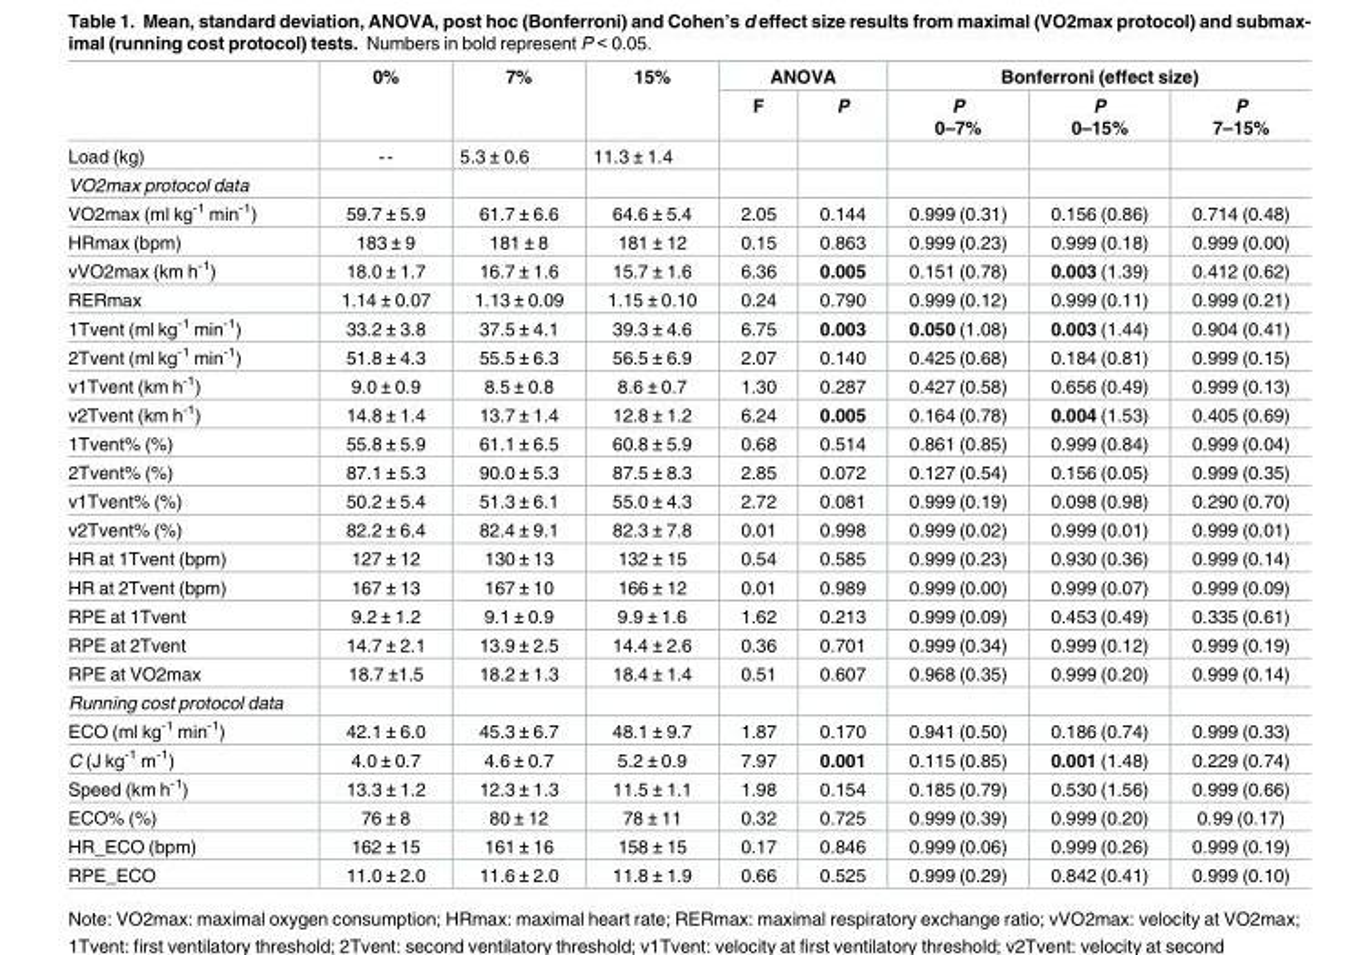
<table><thead><tr><td rowspan="2"></td><td rowspan="2">0%</td><td rowspan="2">7%</td><td rowspan="2">15%</td><td colspan="2">ANOVA</td><td colspan="3">Bonferroni (effect size)</td></tr><tr><td>F</td><td>P</td><td>P 0–7%</td><td>P 0–15%</td><td>P 7–15%</td></tr></thead><tbody><tr><td>Load (kg)</td><td>--</td><td>5.3 ± 0.6</td><td>11.3 ± 1.4</td><td></td><td></td><td></td><td></td><td></td></tr><tr><td colspan="9">VO2max protocol data</td></tr><tr><td>VO2max (ml kg<sup>-1</sup> min<sup>-1</sup>)</td><td>59.7 ± 5.9</td><td>61.7 ± 6.6</td><td>64.6 ± 5.4</td><td>2.05</td><td>0.144</td><td>0.999 (0.31)</td><td>0.156 (0.86)</td><td>0.714 (0.48)</td></tr><tr><td>HRmax (bpm)</td><td>183 ± 9</td><td>181 ± 8</td><td>181 ± 12</td><td>0.15</td><td>0.863</td><td>0.999 (0.23)</td><td>0.999 (0.18)</td><td>0.999 (0.00)</td></tr><tr><td>vVO2max (km h<sup>-1</sup>)</td><td>18.0 ± 1.7</td><td>16.7 ± 1.6</td><td>15.7 ± 1.6</td><td>6.36</td><td>0.005</td><td>0.151 (0.78)</td><td>0.003 (1.39)</td><td>0.412 (0.62)</td></tr><tr><td>RERmax</td><td>1.14 ± 0.07</td><td>1.13 ± 0.09</td><td>1.15 ± 0.10</td><td>0.24</td><td>0.790</td><td>0.999 (0.12)</td><td>0.999 (0.11)</td><td>0.999 (0.21)</td></tr><tr><td>1Tvent (ml kg<sup>-1</sup> min<sup>-1</sup>)</td><td>33.2 ± 3.8</td><td>37.5 ± 4.1</td><td>39.3 ± 4.6</td><td>6.75</td><td>0.003</td><td>0.050 (1.08)</td><td>0.003 (1.44)</td><td>0.904 (0.41)</td></tr><tr><td>2Tvent (ml kg<sup>-1</sup> min<sup>-1</sup>)</td><td>51.8 ± 4.3</td><td>55.5 ± 6.3</td><td>56.5 ± 6.9</td><td>2.07</td><td>0.140</td><td>0.425 (0.68)</td><td>0.184 (0.81)</td><td>0.999 (0.15)</td></tr><tr><td>v1Tvent (km h<sup>-1</sup>)</td><td>9.0 ± 0.9</td><td>8.5 ± 0.8</td><td>8.6 ± 0.7</td><td>1.30</td><td>0.287</td><td>0.427 (0.58)</td><td>0.656 (0.49)</td><td>0.999 (0.13)</td></tr><tr><td>v2Tvent (km h<sup>-1</sup>)</td><td>14.8 ± 1.4</td><td>13.7 ± 1.4</td><td>12.8 ± 1.2</td><td>6.24</td><td>0.005</td><td>0.164 (0.78)</td><td>0.004 (1.53)</td><td>0.405 (0.69)</td></tr><tr><td>1Tvent% (%)</td><td>55.8 ± 5.9</td><td>61.1 ± 6.5</td><td>60.8 ± 5.9</td><td>0.68</td><td>0.514</td><td>0.861 (0.85)</td><td>0.999 (0.84)</td><td>0.999 (0.04)</td></tr><tr><td>2Tvent% (%)</td><td>87.1 ± 5.3</td><td>90.0 ± 5.3</td><td>87.5 ± 8.3</td><td>2.85</td><td>0.072</td><td>0.127 (0.54)</td><td>0.156 (0.05)</td><td>0.999 (0.35)</td></tr><tr><td>v1Tvent% (%)</td><td>50.2 ± 5.4</td><td>51.3 ± 6.1</td><td>55.0 ± 4.3</td><td>2.72</td><td>0.081</td><td>0.999 (0.19)</td><td>0.098 (0.98)</td><td>0.290 (0.70)</td></tr><tr><td>v2Tvent% (%)</td><td>82.2 ± 6.4</td><td>82.4 ± 9.1</td><td>82.3 ± 7.8</td><td>0.01</td><td>0.998</td><td>0.999 (0.02)</td><td>0.999 (0.01)</td><td>0.999 (0.01)</td></tr><tr><td>HR at 1Tvent (bpm)</td><td>127 ± 12</td><td>130 ± 13</td><td>132 ± 15</td><td>0.54</td><td>0.585</td><td>0.999 (0.23)</td><td>0.930 (0.36)</td><td>0.999 (0.14)</td></tr><tr><td>HR at 2Tvent (bpm)</td><td>167 ± 13</td><td>167 ± 10</td><td>166 ± 12</td><td>0.01</td><td>0.989</td><td>0.999 (0.00)</td><td>0.999 (0.07)</td><td>0.999 (0.09)</td></tr><tr><td>RPE at 1Tvent</td><td>9.2 ± 1.2</td><td>9.1 ± 0.9</td><td>9.9 ± 1.6</td><td>1.62</td><td>0.213</td><td>0.999 (0.09)</td><td>0.453 (0.49)</td><td>0.335 (0.61)</td></tr><tr><td>RPE at 2Tvent</td><td>14.7 ± 2.1</td><td>13.9 ± 2.5</td><td>14.4 ± 2.6</td><td>0.36</td><td>0.701</td><td>0.999 (0.34)</td><td>0.999 (0.12)</td><td>0.999 (0.19)</td></tr><tr><td>RPE at VO2max</td><td>18.7 ±1.5</td><td>18.2 ± 1.3</td><td>18.4 ± 1.4</td><td>0.51</td><td>0.607</td><td>0.968 (0.35)</td><td>0.999 (0.20)</td><td>0.999 (0.14)</td></tr><tr><td colspan="9">Running cost protocol data</td></tr><tr><td>ECO (ml kg<sup>-1</sup> min<sup>-1</sup>)</td><td>42.1 ± 6.0</td><td>45.3 ± 6.7</td><td>48.1 ± 9.7</td><td>1.87</td><td>0.170</td><td>0.941 (0.50)</td><td>0.186 (0.74)</td><td>0.999 (0.33)</td></tr><tr><td>C (J kg<sup>-1</sup> m<sup>-1</sup>)</td><td>4.0 ± 0.7</td><td>4.6 ± 0.7</td><td>5.2 ± 0.9</td><td>7.97</td><td>0.001</td><td>0.115 (0.85)</td><td>0.001 (1.48)</td><td>0.229 (0.74)</td></tr><tr><td>Speed (km h<sup>-1</sup>)</td><td>13.3 ± 1.2</td><td>12.3 ± 1.3</td><td>11.5 ± 1.1</td><td>1.98</td><td>0.154</td><td>0.185 (0.79)</td><td>0.530 (1.56)</td><td>0.999 (0.66)</td></tr><tr><td>ECO% (%)</td><td>76 ± 8</td><td>80 ± 12</td><td>78 ± 11</td><td>0.32</td><td>0.725</td><td>0.999 (0.39)</td><td>0.999 (0.20)</td><td>0.99 (0.17)</td></tr><tr><td>HR_ECO (bpm)</td><td>162 ± 15</td><td>161 ± 16</td><td>158 ± 15</td><td>0.17</td><td>0.846</td><td>0.999 (0.06)</td><td>0.999 (0.26)</td><td>0.999 (0.19)</td></tr><tr><td>RPE_ECO</td><td>11.0 ± 2.0</td><td>11.6 ± 2.0</td><td>11.8 ± 1.9</td><td>0.66</td><td>0.525</td><td>0.999 (0.29)</td><td>0.842 (0.41)</td><td>0.999 (0.10)</td></tr></tbody></table>